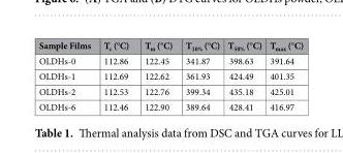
<table><thead><tr><td>Sample Films</td><td>T<sub>c</sub> (°C)</td><td>T<sub>m</sub> (°C)</td><td>T<sub>10%</sub> (°C)</td><td>T<sub>50%</sub> (°C)</td><td>T<sub>max</sub> (°C)</td></tr></thead><tbody><tr><td>OLDHs-0</td><td>112.86</td><td>122.45</td><td>341.87</td><td>398.63</td><td>391.64</td></tr><tr><td>OLDHs-1</td><td>112.69</td><td>122.62</td><td>361.93</td><td>424.49</td><td>401.35</td></tr><tr><td>OLDHs-2</td><td>112.53</td><td>122.76</td><td>399.34</td><td>435.18</td><td>425.01</td></tr><tr><td>OLDHs-6</td><td>112.46</td><td>122.90</td><td>389.64</td><td>428.41</td><td>416.97</td></tr></tbody></table>